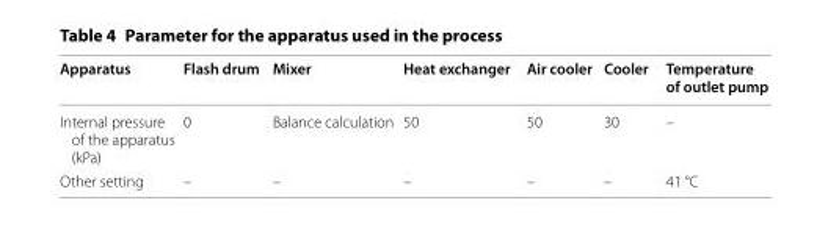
<table><thead><tr><td>Apparatus</td><td>Flash drum</td><td>Mixer</td><td>Heat exchanger</td><td>Air cooler</td><td>Cooler</td><td>Temperature of outlet pump</td></tr></thead><tbody><tr><td>Internal pressure of the apparatus (kPa)</td><td>0</td><td>Balance calculation</td><td>50</td><td>50</td><td>30</td><td>–</td></tr><tr><td>Other setting</td><td>–</td><td>–</td><td>–</td><td>–</td><td>–</td><td>41 °C</td></tr></tbody></table>